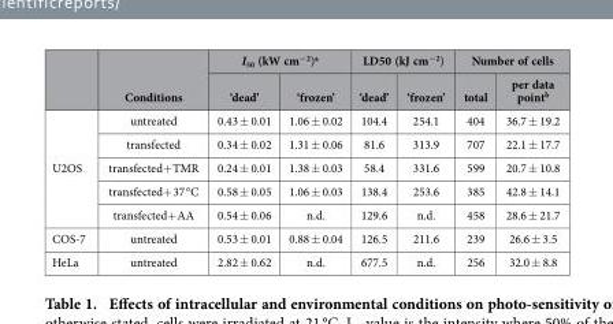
<table><thead><tr><td rowspan="2"></td><td rowspan="2">Conditions</td><td colspan="2">I<sub>50</sub> (kW cm<sup>−2</sup>)<sup>a</sup></td><td colspan="2">LD50 (kJ cm<sup>−2</sup>)</td><td colspan="2">Number of cells</td></tr><tr><td>‘dead’</td><td>‘frozen’</td><td>‘dead’</td><td>‘frozen’</td><td>total</td><td>per data point<sup>b</sup></td></tr></thead><tbody><tr><td rowspan="5">U2OS</td><td>untreated</td><td>0.43 ± 0.01</td><td>1.06 ± 0.02</td><td>104.4</td><td>254.1</td><td>404</td><td>36.7 ± 19.2</td></tr><tr><td>transfected</td><td>0.34 ± 0.02</td><td>1.31 ± 0.06</td><td>81.6</td><td>313.9</td><td>707</td><td>22.1 ± 17.7</td></tr><tr><td>transfected+ TMR</td><td>0.24 ± 0.01</td><td>1.38 ± 0.03</td><td>58.4</td><td>331.6</td><td>599</td><td>20.7 ± 10.8</td></tr><tr><td>transfected+ 37 °C</td><td>0.58 ± 0.05</td><td>1.06 ± 0.03</td><td>138.4</td><td>253.6</td><td>385</td><td>42.8 ± 14.1</td></tr><tr><td>transfected+ AA</td><td>0.54 ± 0.06</td><td>n.d.</td><td>129.6</td><td>n.d.</td><td>458</td><td>28.6 ± 21.7</td></tr><tr><td>COS-7</td><td>untreated</td><td>0.53 ± 0.01</td><td>0.88 ± 0.04</td><td>126.5</td><td>211.6</td><td>239</td><td>26.6 ± 3.5</td></tr><tr><td>HeLa</td><td>untreated</td><td>2.82 ± 0.62</td><td>n.d.</td><td>677.5</td><td>n.d.</td><td>256</td><td>32.0 ± 8.8</td></tr></tbody></table>